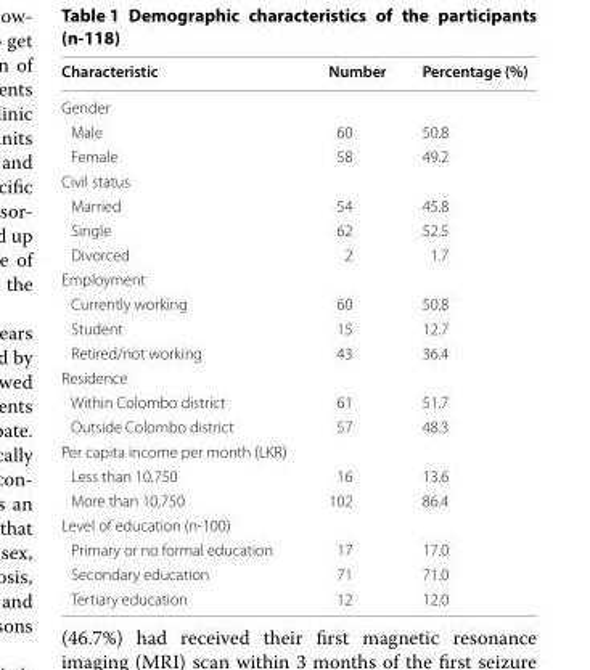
<table><thead><tr><td>Characteristic</td><td>Number</td><td>Percentage (%)</td></tr></thead><tbody><tr><td colspan="3">Gender</td></tr><tr><td>Male</td><td>60</td><td>50.8</td></tr><tr><td>Female</td><td>58</td><td>49.2</td></tr><tr><td colspan="3">Civil status</td></tr><tr><td>Married</td><td>54</td><td>45.8</td></tr><tr><td>Single</td><td>62</td><td>52.5</td></tr><tr><td>Divorced</td><td>2</td><td>1.7</td></tr><tr><td colspan="3">Employment</td></tr><tr><td>Currently working</td><td>60</td><td>50.8</td></tr><tr><td>Student</td><td>15</td><td>12.7</td></tr><tr><td>Retired/not working</td><td>43</td><td>36.4</td></tr><tr><td colspan="3">Residence</td></tr><tr><td>Within Colombo district</td><td>61</td><td>51.7</td></tr><tr><td>Outside Colombo district</td><td>57</td><td>48.3</td></tr><tr><td colspan="3">Per capita income per month (LKR)</td></tr><tr><td>Less than 10,750</td><td>16</td><td>13.6</td></tr><tr><td>More than 10,750</td><td>102</td><td>86.4</td></tr><tr><td colspan="3">Level of education (n-100)</td></tr><tr><td>Primary or no formal education</td><td>17</td><td>17.0</td></tr><tr><td>Secondary education</td><td>71</td><td>71.0</td></tr><tr><td>Tertiary education</td><td>12</td><td>12.0</td></tr></tbody></table>